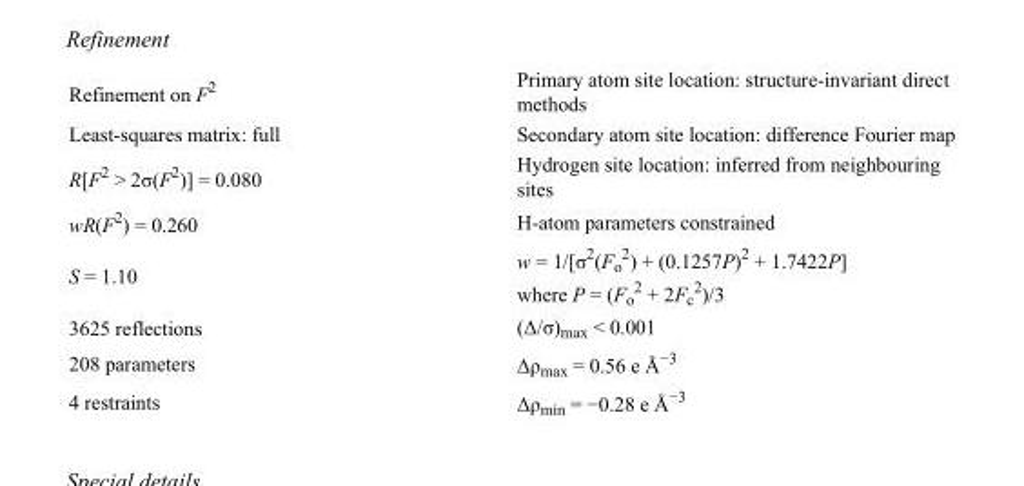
<table><tbody><tr><td>Refinement on F<sup>2</sup></td><td>Primary atom site location: structure-invariant direct methods</td></tr><tr><td>Least-squares matrix: full</td><td>Secondary atom site location: difference Fourier map</td></tr><tr><td>R[F<sup>2</sup> &gt; 2σ(F<sup>2</sup>)] = 0.080</td><td>Hydrogen site location: inferred from neighbouring sites</td></tr><tr><td>wR(F<sup>2</sup>) = 0.260</td><td>H-atom parameters constrained</td></tr><tr><td>S = 1.10</td><td>w = 1/[σ<sup>2</sup>(F<sub>o</sub> <sup>2</sup>) + (0.1257P)<sup>2</sup> + 1.7422P] where P = (F<sub>o</sub> <sup>2</sup> + 2F<sub>c</sub> <sup>2</sup>)/3</td></tr><tr><td>3625 reflections</td><td>(Δ/σ)<sub>max</sub> &lt; 0.001</td></tr><tr><td>208 parameters</td><td>Δρ<sub>max</sub> = 0.56 e Å<sup>−3</sup></td></tr><tr><td>4 restraints</td><td>Δρ<sub>min</sub> = −0.28 e Å<sup>−3</sup></td></tr></tbody></table>